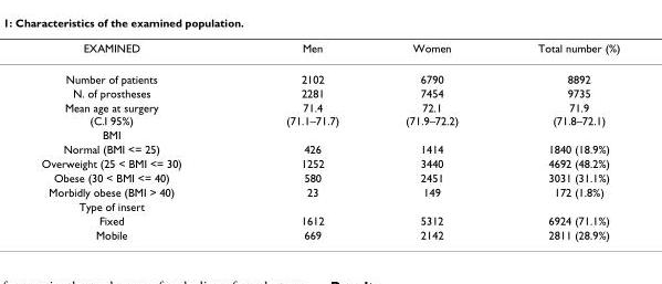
<table><thead><tr><td>EXAMINED</td><td>Men</td><td>Women</td><td>Total number (%)</td></tr></thead><tbody><tr><td>Number of patients</td><td>2102</td><td>6790</td><td>8892</td></tr><tr><td>N. of prostheses</td><td>2281</td><td>7454</td><td>9735</td></tr><tr><td>Mean age at surgery (C.I 95%)</td><td>71.4 (71.1–71.7)</td><td>72.1 (71.9–72.2)</td><td>71.9 (71.8–72.1)</td></tr><tr><td colspan="4">BMI</td></tr><tr><td>Normal (BMI &lt;= 25)</td><td>426</td><td>1414</td><td>1840 (18.9%)</td></tr><tr><td>Overweight (25 &lt; BMI &lt;= 30)</td><td>1252</td><td>3440</td><td>4692 (48.2%)</td></tr><tr><td>Obese (30 &lt; BMI &lt;= 40)</td><td>580</td><td>2451</td><td>3031 (31.1%)</td></tr><tr><td>Morbidly obese (BMI &gt; 40)</td><td>23</td><td>149</td><td>172 (1.8%)</td></tr><tr><td colspan="4">Type of insert</td></tr><tr><td>Fixed</td><td>1612</td><td>5312</td><td>6924 (71.1%)</td></tr><tr><td>Mobile</td><td>669</td><td>2142</td><td>2811 (28.9%)</td></tr></tbody></table>